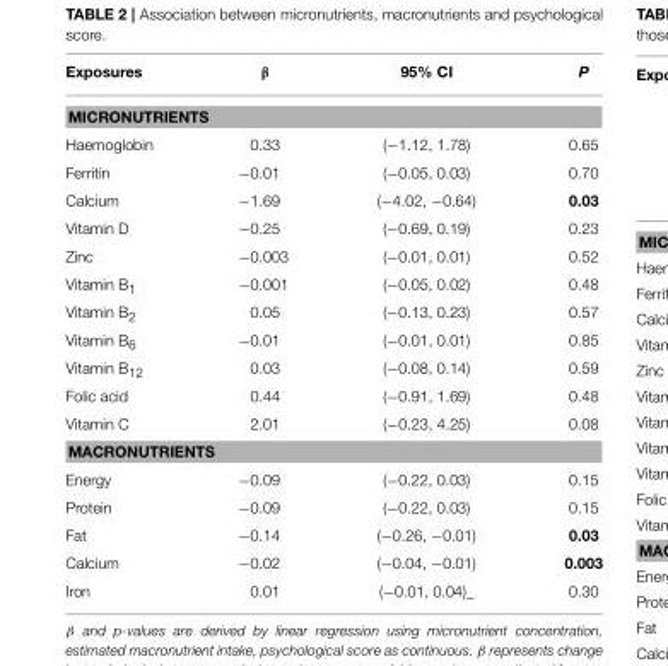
<table><thead><tr><td>Exposures</td><td>β</td><td>95% CI</td><td>P</td></tr></thead><tbody><tr><td colspan="4">MICRONUTRIENTS</td></tr><tr><td>Haemoglobin</td><td>0.33</td><td>(−1.12, 1.78)</td><td>0.65</td></tr><tr><td>Ferritin</td><td>−0.01</td><td>(−0.05, 0.03)</td><td>0.70</td></tr><tr><td>Calcium</td><td>−1.69</td><td>(−4.02, −0.64)</td><td>0.03</td></tr><tr><td>Vitamin D</td><td>−0.25</td><td>(−0.69, 0.19)</td><td>0.23</td></tr><tr><td>Zinc</td><td>−0.003</td><td>(−0.01, 0.01)</td><td>0.52</td></tr><tr><td>Vitamin B<sub>1</sub></td><td>−0.001</td><td>(−0.05, 0.02)</td><td>0.48</td></tr><tr><td>Vitamin B<sub>2</sub></td><td>0.05</td><td>(−0.13, 0.23)</td><td>0.57</td></tr><tr><td>Vitamin B<sub>6</sub></td><td>−0.01</td><td>(−0.01, 0.01)</td><td>0.85</td></tr><tr><td>Vitamin B<sub>12</sub></td><td>0.03</td><td>(−0.08, 0.14)</td><td>0.59</td></tr><tr><td>Folic acid</td><td>0.44</td><td>(−0.91, 1.69)</td><td>0.48</td></tr><tr><td>Vitamin C</td><td>2.01</td><td>(−0.23, 4.25)</td><td>0.08</td></tr><tr><td colspan="4">MACRONUTRIENTS</td></tr><tr><td>Energy</td><td>−0.09</td><td>(−0.22, 0.03)</td><td>0.15</td></tr><tr><td>Protein</td><td>−0.09</td><td>(−0.22, 0.03)</td><td>0.15</td></tr><tr><td>Fat</td><td>−0.14</td><td>(−0.26, −0.01)</td><td>0.03</td></tr><tr><td>Calcium</td><td>−0.02</td><td>(−0.04, −0.01)</td><td>0.003</td></tr><tr><td>Iron</td><td>0.01</td><td>(−0.01, 0.04)_</td><td>0.30</td></tr></tbody></table>